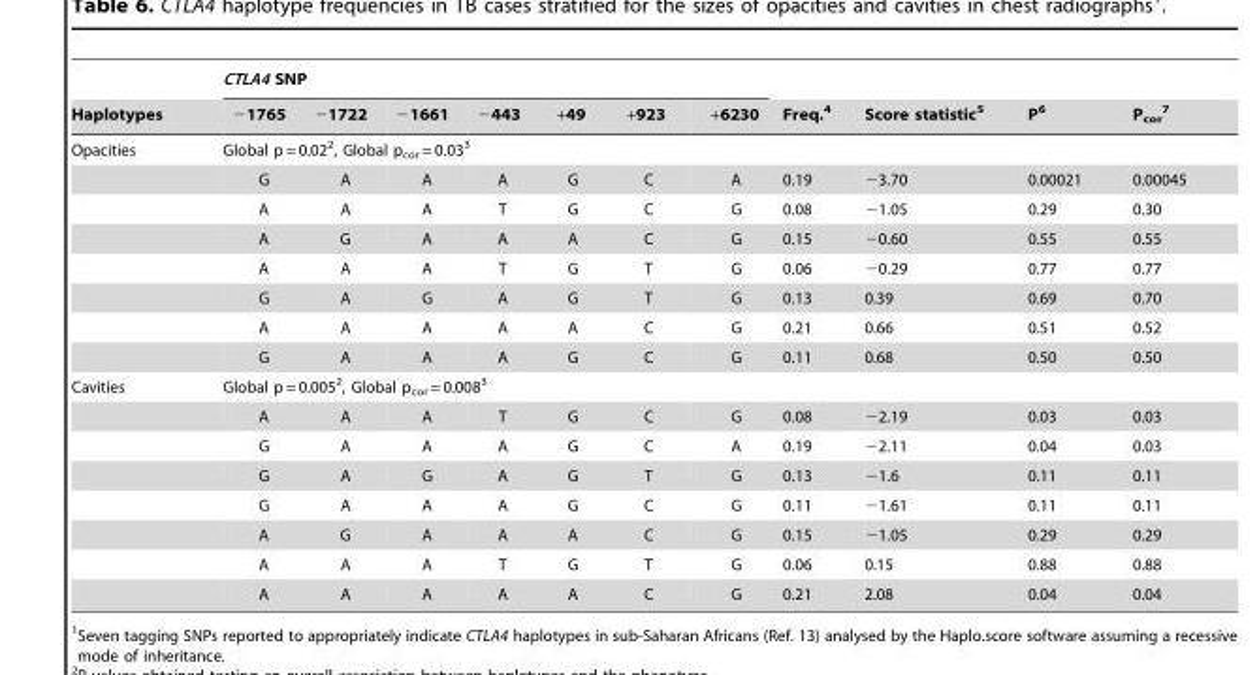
<table><thead><tr><td rowspan="2">Haplotypes</td><td colspan="7">CTLA4 SNP</td><td rowspan="2">Freq.<sup>4</sup></td><td rowspan="2">Score statistic<sup>5</sup></td><td rowspan="2">P<sup>6</sup></td><td rowspan="2">P<sub>cor</sub> 7</td></tr><tr><td>−1765</td><td>−1722</td><td>−1661</td><td>−443</td><td>+49</td><td>+923</td><td>+6230</td></tr></thead><tbody><tr><td rowspan="8">Opacities</td><td colspan="11">Global p = 0.02<sup>2</sup>, Global p<sub>cor</sub> = 0.03<sup>3</sup></td></tr><tr><td>G</td><td>A</td><td>A</td><td>A</td><td>G</td><td>C</td><td>A</td><td>0.19</td><td>−3.70</td><td>0.00021</td><td>0.00045</td></tr><tr><td>A</td><td>A</td><td>A</td><td>T</td><td>G</td><td>C</td><td>G</td><td>0.08</td><td>−1.05</td><td>0.29</td><td>0.30</td></tr><tr><td>A</td><td>G</td><td>A</td><td>A</td><td>A</td><td>C</td><td>G</td><td>0.15</td><td>−0.60</td><td>0.55</td><td>0.55</td></tr><tr><td>A</td><td>A</td><td>A</td><td>T</td><td>G</td><td>T</td><td>G</td><td>0.06</td><td>−0.29</td><td>0.77</td><td>0.77</td></tr><tr><td>G</td><td>A</td><td>G</td><td>A</td><td>G</td><td>T</td><td>G</td><td>0.13</td><td>0.39</td><td>0.69</td><td>0.70</td></tr><tr><td>A</td><td>A</td><td>A</td><td>A</td><td>A</td><td>C</td><td>G</td><td>0.21</td><td>0.66</td><td>0.51</td><td>0.52</td></tr><tr><td>G</td><td>A</td><td>A</td><td>A</td><td>G</td><td>C</td><td>G</td><td>0.11</td><td>0.68</td><td>0.50</td><td>0.50</td></tr><tr><td rowspan="8">Cavities</td><td colspan="11">Global p = 0.005<sup>2</sup>, Global p<sub>cor</sub> = 0.008<sup>3</sup></td></tr><tr><td>A</td><td>A</td><td>A</td><td>T</td><td>G</td><td>C</td><td>G</td><td>0.08</td><td>−2.19</td><td>0.03</td><td>0.03</td></tr><tr><td>G</td><td>A</td><td>A</td><td>A</td><td>G</td><td>C</td><td>A</td><td>0.19</td><td>−2.11</td><td>0.04</td><td>0.03</td></tr><tr><td>G</td><td>A</td><td>G</td><td>A</td><td>G</td><td>T</td><td>G</td><td>0.13</td><td>−1.6</td><td>0.11</td><td>0.11</td></tr><tr><td>G</td><td>A</td><td>A</td><td>A</td><td>G</td><td>C</td><td>G</td><td>0.11</td><td>−1.61</td><td>0.11</td><td>0.11</td></tr><tr><td>A</td><td>G</td><td>A</td><td>A</td><td>A</td><td>C</td><td>G</td><td>0.15</td><td>−1.05</td><td>0.29</td><td>0.29</td></tr><tr><td>A</td><td>A</td><td>A</td><td>T</td><td>G</td><td>T</td><td>G</td><td>0.06</td><td>0.15</td><td>0.88</td><td>0.88</td></tr><tr><td>A</td><td>A</td><td>A</td><td>A</td><td>A</td><td>C</td><td>G</td><td>0.21</td><td>2.08</td><td>0.04</td><td>0.04</td></tr></tbody></table>